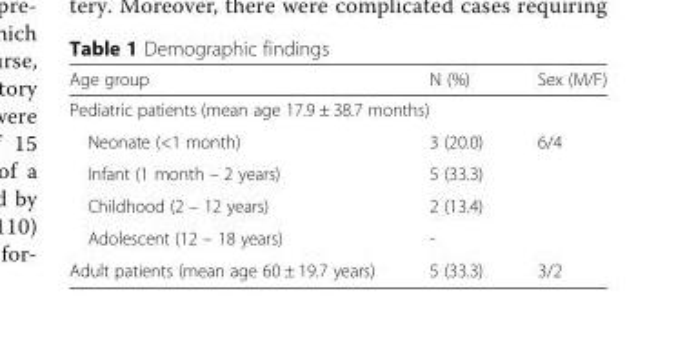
<table><thead><tr><td>Age group</td><td>N (%)</td><td>Sex (M/F)</td></tr></thead><tbody><tr><td colspan="3">Pediatric patients (mean age 17.9 ± 38.7 months)</td></tr><tr><td>Neonate (&lt;1 month)</td><td>3 (20.0)</td><td rowspan="4">6/4</td></tr><tr><td>Infant (1 month – 2 years)</td><td>5 (33.3)</td></tr><tr><td>Childhood (2 – 12 years)</td><td>2 (13.4)</td></tr><tr><td>Adolescent (12 – 18 years)</td><td>-</td></tr><tr><td>Adult patients (mean age 60 ± 19.7 years)</td><td>5 (33.3)</td><td>3/2</td></tr></tbody></table>